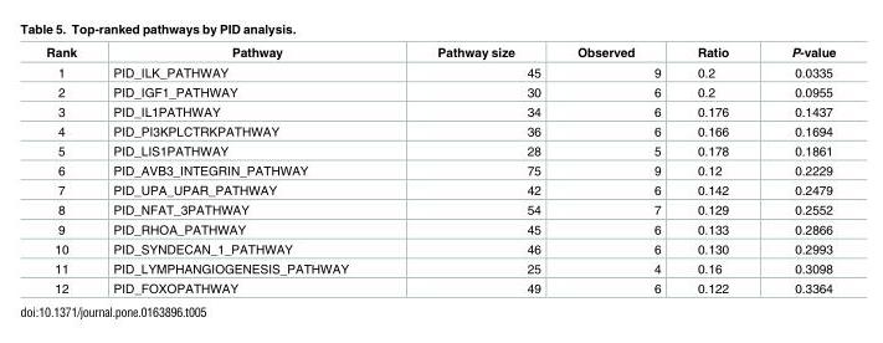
<table><thead><tr><td>Rank</td><td>Pathway</td><td>Pathway size</td><td>Observed</td><td>Ratio</td><td>P-value</td></tr></thead><tbody><tr><td>1</td><td>PID_ILK_PATHWAY</td><td>45</td><td>9</td><td>0.2</td><td>0.0335</td></tr><tr><td>2</td><td>PID_IGF1_PATHWAY</td><td>30</td><td>6</td><td>0.2</td><td>0.0955</td></tr><tr><td>3</td><td>PID_IL1PATHWAY</td><td>34</td><td>6</td><td>0.176</td><td>0.1437</td></tr><tr><td>4</td><td>PID_PI3KPLCTRKPATHWAY</td><td>36</td><td>6</td><td>0.166</td><td>0.1694</td></tr><tr><td>5</td><td>PID_LIS1PATHWAY</td><td>28</td><td>5</td><td>0.178</td><td>0.1861</td></tr><tr><td>6</td><td>PID_AVB3_INTEGRIN_PATHWAY</td><td>75</td><td>9</td><td>0.12</td><td>0.2229</td></tr><tr><td>7</td><td>PID_UPA_UPAR_PATHWAY</td><td>42</td><td>6</td><td>0.142</td><td>0.2479</td></tr><tr><td>8</td><td>PID_NFAT_3PATHWAY</td><td>54</td><td>7</td><td>0.129</td><td>0.2552</td></tr><tr><td>9</td><td>PID_RHOA_PATHWAY</td><td>45</td><td>6</td><td>0.133</td><td>0.2866</td></tr><tr><td>10</td><td>PID_SYNDECAN_1_PATHWAY</td><td>46</td><td>6</td><td>0.130</td><td>0.2993</td></tr><tr><td>11</td><td>PID_LYMPHANGIOGENESIS_PATHWAY</td><td>25</td><td>4</td><td>0.16</td><td>0.3098</td></tr><tr><td>12</td><td>PID_FOXOPATHWAY</td><td>49</td><td>6</td><td>0.122</td><td>0.3364</td></tr></tbody></table>